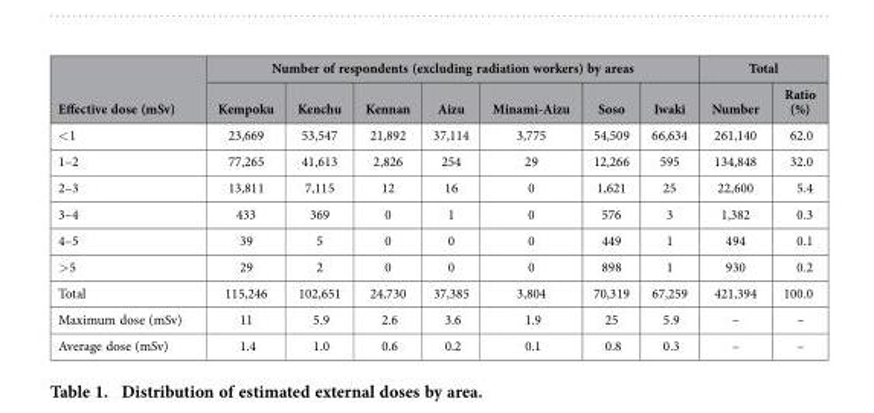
<table><thead><tr><td rowspan="2">Effective dose (mSv)</td><td colspan="7">Number of respondents (excluding radiation workers) by areas</td><td colspan="2">Total</td></tr><tr><td>Kempoku</td><td>Kenchu</td><td>Kennan</td><td>Aizu</td><td>Minami-Aizu</td><td>Soso</td><td>Iwaki</td><td>Number</td><td>Ratio (%)</td></tr></thead><tbody><tr><td>&lt; 1</td><td>23,669</td><td>53,547</td><td>21,892</td><td>37,114</td><td>3,775</td><td>54,509</td><td>66,634</td><td>261,140</td><td>62.0</td></tr><tr><td>1–2</td><td>77,265</td><td>41,613</td><td>2,826</td><td>254</td><td>29</td><td>12,266</td><td>595</td><td>134,848</td><td>32.0</td></tr><tr><td>2–3</td><td>13,811</td><td>7,115</td><td>12</td><td>16</td><td>0</td><td>1,621</td><td>25</td><td>22,600</td><td>5.4</td></tr><tr><td>3–4</td><td>433</td><td>369</td><td>0</td><td>1</td><td>0</td><td>576</td><td>3</td><td>1,382</td><td>0.3</td></tr><tr><td>4–5</td><td>39</td><td>5</td><td>0</td><td>0</td><td>0</td><td>449</td><td>1</td><td>494</td><td>0.1</td></tr><tr><td>&gt; 5</td><td>29</td><td>2</td><td>0</td><td>0</td><td>0</td><td>898</td><td>1</td><td>930</td><td>0.2</td></tr><tr><td>Total</td><td>115,246</td><td>102,651</td><td>24,730</td><td>37,385</td><td>3,804</td><td>70,319</td><td>67,259</td><td>421,394</td><td>100.0</td></tr><tr><td>Maximum dose (mSv)</td><td>11</td><td>5.9</td><td>2.6</td><td>3.6</td><td>1.9</td><td>25</td><td>5.9</td><td>–</td><td>–</td></tr><tr><td>Average dose (mSv)</td><td>1.4</td><td>1.0</td><td>0.6</td><td>0.2</td><td>0.1</td><td>0.8</td><td>0.3</td><td>–</td><td>–</td></tr></tbody></table>